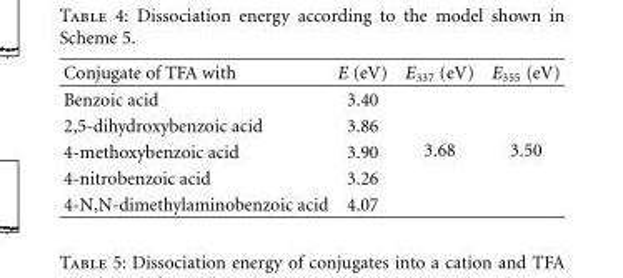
<table><thead><tr><td>Conjugate of TFA with</td><td>E (eV)</td><td>E<sub>337</sub> (eV)</td><td>E<sub>355</sub> (eV)</td></tr></thead><tbody><tr><td>Benzoic acid</td><td>3.40</td><td rowspan="5">3.68</td><td rowspan="5">3.50</td></tr><tr><td>2,5-dihydroxybenzoic acid</td><td>3.86</td></tr><tr><td>4-methoxybenzoic acid</td><td>3.90</td></tr><tr><td>4-nitrobenzoic acid</td><td>3.26</td></tr><tr><td>4-N,N-dimethylaminobenzoic acid</td><td>4.07</td></tr></tbody></table>